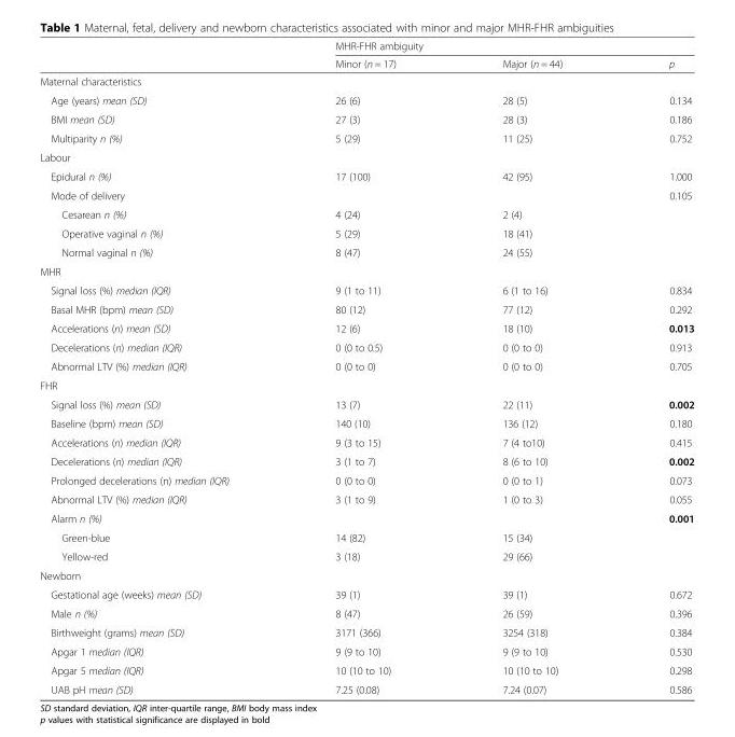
<table><thead><tr><td rowspan="2"></td><td colspan="3">MHR-FHR ambiguity</td></tr><tr><td>Minor (n = 17)</td><td>Major (n = 44)</td><td>p</td></tr></thead><tbody><tr><td colspan="4">Maternal characteristics</td></tr><tr><td>Age (years) mean (SD)</td><td>26 (6)</td><td>28 (5)</td><td>0.134</td></tr><tr><td>BMI mean (SD)</td><td>27 (3)</td><td>28 (3)</td><td>0.186</td></tr><tr><td>Multiparity n (%)</td><td>5 (29)</td><td>11 (25)</td><td>0.752</td></tr><tr><td colspan="4">Labour</td></tr><tr><td>Epidural n (%)</td><td>17 (100)</td><td>42 (95)</td><td>1.000</td></tr><tr><td>Mode of delivery</td><td></td><td></td><td>0.105</td></tr><tr><td>Cesarean n (%)</td><td>4 (24)</td><td>2 (4)</td><td></td></tr><tr><td>Operative vaginal n (%)</td><td>5 (29)</td><td>18 (41)</td><td></td></tr><tr><td>Normal vaginal n (%)</td><td>8 (47)</td><td>24 (55)</td><td></td></tr><tr><td colspan="4">MHR</td></tr><tr><td>Signal loss (%) median (IQR)</td><td>9 (1 to 11)</td><td>6 (1 to 16)</td><td>0.834</td></tr><tr><td>Basal MHR (bpm) mean (SD)</td><td>80 (12)</td><td>77 (12)</td><td>0.292</td></tr><tr><td>Accelerations (n) mean (SD)</td><td>12 (6)</td><td>18 (10)</td><td>0.013</td></tr><tr><td>Decelerations (n) median (IQR)</td><td>0 (0 to 0.5)</td><td>0 (0 to 0)</td><td>0.913</td></tr><tr><td>Abnormal LTV (%) median (IQR)</td><td>0 (0 to 0)</td><td>0 (0 to 0)</td><td>0.705</td></tr><tr><td colspan="4">FHR</td></tr><tr><td>Signal loss (%) mean (SD)</td><td>13 (7)</td><td>22 (11)</td><td>0.002</td></tr><tr><td>Baseline (bpm) mean (SD)</td><td>140 (10)</td><td>136 (12)</td><td>0.180</td></tr><tr><td>Accelerations (n) median (IQR)</td><td>9 (3 to 15)</td><td>7 (4 to10)</td><td>0.415</td></tr><tr><td>Decelerations (n) median (IQR)</td><td>3 (1 to 7)</td><td>8 (6 to 10)</td><td>0.002</td></tr><tr><td>Prolonged decelerations (n) median (IQR)</td><td>0 (0 to 0)</td><td>0 (0 to 1)</td><td>0.073</td></tr><tr><td>Abnormal LTV (%) median (IQR)</td><td>3 (1 to 9)</td><td>1 (0 to 3)</td><td>0.055</td></tr><tr><td>Alarm n (%)</td><td></td><td></td><td>0.001</td></tr><tr><td>Green-blue</td><td>14 (82)</td><td>15 (34)</td><td></td></tr><tr><td>Yellow-red</td><td>3 (18)</td><td>29 (66)</td><td></td></tr><tr><td colspan="4">Newborn</td></tr><tr><td>Gestational age (weeks) mean (SD)</td><td>39 (1)</td><td>39 (1)</td><td>0.672</td></tr><tr><td>Male n (%)</td><td>8 (47)</td><td>26 (59)</td><td>0.396</td></tr><tr><td>Birthweight (grams) mean (SD)</td><td>3171 (366)</td><td>3254 (318)</td><td>0.384</td></tr><tr><td>Apgar 1 median (IQR)</td><td>9 (9 to 10)</td><td>9 (9 to 10)</td><td>0.530</td></tr><tr><td>Apgar 5 median (IQR)</td><td>10 (10 to 10)</td><td>10 (10 to 10)</td><td>0.298</td></tr><tr><td>UAB pH mean (SD)</td><td>7.25 (0.08)</td><td>7.24 (0.07)</td><td>0.586</td></tr></tbody></table>